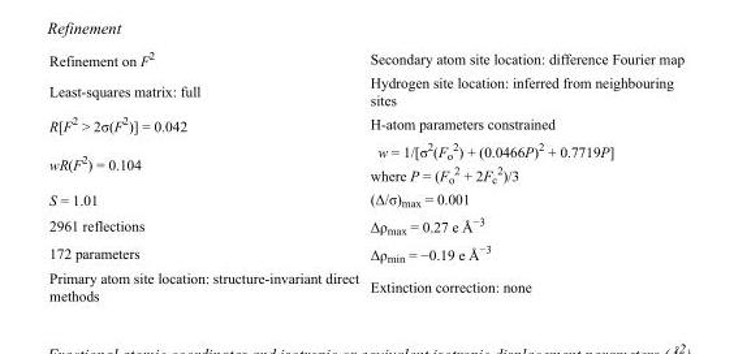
<table><tbody><tr><td>Refinement on F<sup>2</sup></td><td>Secondary atom site location: difference Fourier map</td></tr><tr><td>Least-squares matrix: full</td><td>Hydrogen site location: inferred from neighbouring sites</td></tr><tr><td>R[F<sup>2</sup> &gt; 2σ(F<sup>2</sup>)] = 0.042</td><td>H-atom parameters constrained</td></tr><tr><td>wR(F<sup>2</sup>) = 0.104</td><td>w = 1/[σ<sup>2</sup>(F<sub>o</sub> <sup>2</sup>) + (0.0466P)<sup>2</sup> + 0.7719P] where P = (F<sub>o</sub> <sup>2</sup> + 2F<sub>c</sub> <sup>2</sup>)/3</td></tr><tr><td>S = 1.01</td><td>(Δ/σ)<sub>max</sub> = 0.001</td></tr><tr><td>2961 reflections</td><td>Δρ<sub>max</sub> = 0.27 e Å<sup>−3</sup></td></tr><tr><td>172 parameters</td><td>Δρ<sub>min</sub> = −0.19 e Å<sup>−3</sup></td></tr><tr><td>Primary atom site location: structure-invariant direct methods</td><td>Extinction correction: none</td></tr></tbody></table>